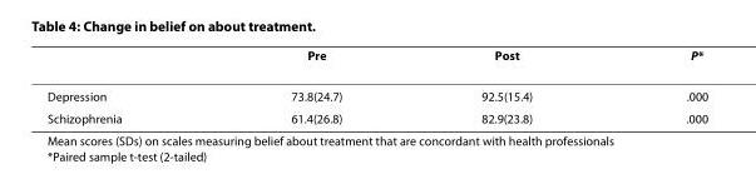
<table><thead><tr><td></td><td>Pre</td><td>Post</td><td>P*</td></tr></thead><tbody><tr><td>Depression</td><td>73.8(24.7)</td><td>92.5(15.4)</td><td>.000</td></tr><tr><td>Schizophrenia</td><td>61.4(26.8)</td><td>82.9(23.8)</td><td>.000</td></tr></tbody></table>